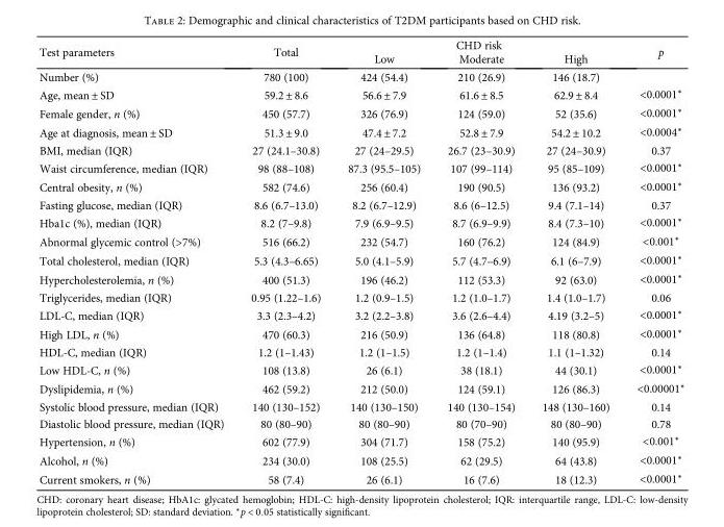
<table><thead><tr><td rowspan="2">Test parameters</td><td rowspan="2">Total</td><td colspan="3">CHD risk</td><td rowspan="2">p</td></tr><tr><td>Low</td><td>Moderate</td><td>High</td></tr></thead><tbody><tr><td>Number (%)</td><td>780 (100)</td><td>424 (54.4)</td><td>210 (26.9)</td><td>146 (18.7)</td><td></td></tr><tr><td>Age, mean ± SD</td><td>59.2 ± 8.6</td><td>56.6 ± 7.9</td><td>61.6 ± 8.5</td><td>62.9 ± 8.4</td><td>&lt;0.0001∗</td></tr><tr><td>Female gender, n (%)</td><td>450 (57.7)</td><td>326 (76.9)</td><td>124 (59.0)</td><td>52 (35.6)</td><td>&lt;0.0001∗</td></tr><tr><td>Age at diagnosis, mean ± SD</td><td>51.3 ± 9.0</td><td>47.4 ± 7.2</td><td>52.8 ± 7.9</td><td>54.2 ± 10.2</td><td>&lt;0.0004∗</td></tr><tr><td>BMI, median (IQR)</td><td>27 (24.1–30.8)</td><td>27 (24–29.5)</td><td>26.7 (23–30.9)</td><td>27 (24–30.9)</td><td>0.37</td></tr><tr><td>Waist circumference, median (IQR)</td><td>98 (88–108)</td><td>87.3 (95.5–105)</td><td>107 (99–114)</td><td>95 (85–109)</td><td>&lt;0.0001∗</td></tr><tr><td>Central obesity, n (%)</td><td>582 (74.6)</td><td>256 (60.4)</td><td>190 (90.5)</td><td>136 (93.2)</td><td>&lt;0.0001∗</td></tr><tr><td>Fasting glucose, median (IQR)</td><td>8.6 (6.7–13.0)</td><td>8.2 (6.7–12.9)</td><td>8.6 (6–12.5)</td><td>9.4 (7.1–14)</td><td>0.37</td></tr><tr><td>Hba1c (%), median (IQR)</td><td>8.2 (7–9.8)</td><td>7.9 (6.9–9.5)</td><td>8.7 (6.9–9.9)</td><td>8.4 (7.3–10)</td><td>&lt;0.0001∗</td></tr><tr><td>Abnormal glycemic control (&gt;7%)</td><td>516 (66.2)</td><td>232 (54.7)</td><td>160 (76.2)</td><td>124 (84.9)</td><td>&lt;0.001∗</td></tr><tr><td>Total cholesterol, median (IQR)</td><td>5.3 (4.3–6.65)</td><td>5.0 (4.1–5.9)</td><td>5.7 (4.7–6.9)</td><td>6.1 (6–7.9)</td><td>&lt;0.0001∗</td></tr><tr><td>Hypercholesterolemia, n (%)</td><td>400 (51.3)</td><td>196 (46.2)</td><td>112 (53.3)</td><td>92 (63.0)</td><td>&lt;0.0001∗</td></tr><tr><td>Triglycerides, median (IQR)</td><td>0.95 (1.22–1.6)</td><td>1.2 (0.9–1.5)</td><td>1.2 (1.0–1.7)</td><td>1.4 (1.0–1.7)</td><td>0.06</td></tr><tr><td>LDL-C, median (IQR)</td><td>3.3 (2.3–4.2)</td><td>3.2 (2.2–3.8)</td><td>3.6 (2.6–4.4)</td><td>4.19 (3.2–5)</td><td>&lt;0.0001∗</td></tr><tr><td>High LDL, n (%)</td><td>470 (60.3)</td><td>216 (50.9)</td><td>136 (64.8)</td><td>118 (80.8)</td><td>&lt;0.0001∗</td></tr><tr><td>HDL-C, median (IQR)</td><td>1.2 (1–1.43)</td><td>1.2 (1–1.5)</td><td>1.2 (1–1.4)</td><td>1.1 (1–1.32)</td><td>0.14</td></tr><tr><td>Low HDL-C, n (%)</td><td>108 (13.8)</td><td>26 (6.1)</td><td>38 (18.1)</td><td>44 (30.1)</td><td>&lt;0.0001∗</td></tr><tr><td>Dyslipidemia, n (%)</td><td>462 (59.2)</td><td>212 (50.0)</td><td>124 (59.1)</td><td>126 (86.3)</td><td>&lt;0.00001∗</td></tr><tr><td>Systolic blood pressure, median (IQR)</td><td>140 (130–152)</td><td>140 (130–150)</td><td>140 (130–154)</td><td>148 (130–160)</td><td>0.14</td></tr><tr><td>Diastolic blood pressure, median (IQR)</td><td>80 (80–90)</td><td>80 (80–90)</td><td>80 (70–90)</td><td>80 (80–90)</td><td>0.78</td></tr><tr><td>Hypertension, n (%)</td><td>602 (77.9)</td><td>304 (71.7)</td><td>158 (75.2)</td><td>140 (95.9)</td><td>&lt;0.001∗</td></tr><tr><td>Alcohol, n (%)</td><td>234 (30.0)</td><td>108 (25.5)</td><td>62 (29.5)</td><td>64 (43.8)</td><td>&lt;0.0001∗</td></tr><tr><td>Current smokers, n (%)</td><td>58 (7.4)</td><td>26 (6.1)</td><td>16 (7.6)</td><td>18 (12.3)</td><td>&lt;0.0001∗</td></tr></tbody></table>